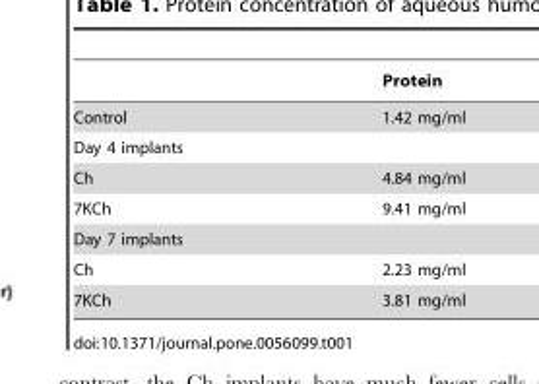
<table><thead><tr><td></td><td>Protein</td></tr></thead><tbody><tr><td>Control</td><td>1.42 mg/ml</td></tr><tr><td colspan="2">Day 4 implants</td></tr><tr><td>Ch</td><td>4.84 mg/ml</td></tr><tr><td>7KCh</td><td>9.41 mg/ml</td></tr><tr><td colspan="2">Day 7 implants</td></tr><tr><td>Ch</td><td>2.23 mg/ml</td></tr><tr><td>7KCh</td><td>3.81 mg/ml</td></tr></tbody></table>